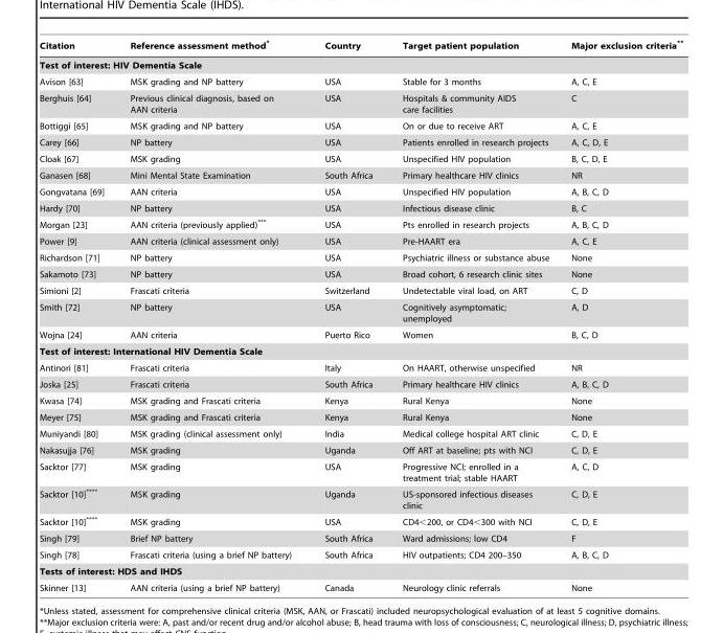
<table><thead><tr><td>Citation</td><td>Reference assessment method*</td><td>Country</td><td>Target patient population</td><td>Major exclusion criteria**</td></tr></thead><tbody><tr><td colspan="5">Test of interest: HIV Dementia Scale</td></tr><tr><td>Avison [63]</td><td>MSK grading and NP battery</td><td>USA</td><td>Stable for 3 months</td><td>A, C, E</td></tr><tr><td>Berghuis [64]</td><td>Previous clinical diagnosis, based on AAN criteria</td><td>USA</td><td>Hospitals &amp; community AIDS care facilities</td><td>C</td></tr><tr><td>Bottiggi [65]</td><td>MSK grading and NP battery</td><td>USA</td><td>On or due to receive ART</td><td>A, C, E</td></tr><tr><td>Carey [66]</td><td>NP battery</td><td>USA</td><td>Patients enrolled in research projects</td><td>A, C, D, E</td></tr><tr><td>Cloak [67]</td><td>MSK grading</td><td>USA</td><td>Unspecified HIV population</td><td>B, C, D, E</td></tr><tr><td>Ganasen [68]</td><td>Mini Mental State Examination</td><td>South Africa</td><td>Primary healthcare HIV clinics</td><td>NR</td></tr><tr><td>Gongvatana [69]</td><td>AAN criteria</td><td>USA</td><td>Unspecified HIV population</td><td>A, B, C, D</td></tr><tr><td>Hardy [70]</td><td>NP battery</td><td>USA</td><td>Infectious disease clinic</td><td>B, C</td></tr><tr><td>Morgan [23]</td><td>AAN criteria (previously applied)***</td><td>USA</td><td>Pts enrolled in research projects</td><td>A, B, C, D</td></tr><tr><td>Power [9]</td><td>AAN criteria (clinical assessment only)</td><td>USA</td><td>Pre-HAART era</td><td>A, C, E</td></tr><tr><td>Richardson [71]</td><td>NP battery</td><td>USA</td><td>Psychiatric illness or substance abuse</td><td>None</td></tr><tr><td>Sakamoto [73]</td><td>NP battery</td><td>USA</td><td>Broad cohort, 6 research clinic sites</td><td>None</td></tr><tr><td>Simioni [2]</td><td>Frascati criteria</td><td>Switzerland</td><td>Undetectable viral load, on ART</td><td>C, D</td></tr><tr><td>Smith [72]</td><td>NP battery</td><td>USA</td><td>Cognitively asymptomatic; unemployed</td><td>A, D</td></tr><tr><td>Wojna [24]</td><td>AAN criteria</td><td>Puerto Rico</td><td>Women</td><td>B, C, D</td></tr><tr><td colspan="5">Test of interest: International HIV Dementia Scale</td></tr><tr><td>Antinori [81]</td><td>Frascati criteria</td><td>Italy</td><td>On HAART, otherwise unspecified</td><td>NR</td></tr><tr><td>Joska [25]</td><td>Frascati criteria</td><td>South Africa</td><td>Primary healthcare HIV clinics</td><td>A, B, C, D</td></tr><tr><td>Kwasa [74]</td><td>MSK grading and Frascati criteria</td><td>Kenya</td><td>Rural Kenya</td><td>None</td></tr><tr><td>Meyer [75]</td><td>MSK grading and Frascati criteria</td><td>Kenya</td><td>Rural Kenya</td><td>None</td></tr><tr><td>Muniyandi [80]</td><td>MSK grading (clinical assessment only)</td><td>India</td><td>Medical college hospital ART clinic</td><td>C, D, E</td></tr><tr><td>Nakasujja [76]</td><td>MSK grading</td><td>Uganda</td><td>Off ART at baseline; pts with NCI</td><td>C, D, E</td></tr><tr><td>Sacktor [77]</td><td>MSK grading</td><td>USA</td><td>Progressive NCI; enrolled in a treatment trial; stable HAART</td><td>A, C, D</td></tr><tr><td>Sacktor [10]****</td><td>MSK grading</td><td>Uganda</td><td>US-sponsored infectious diseases clinic</td><td>C, D, E</td></tr><tr><td>Sacktor [10]****</td><td>MSK grading</td><td>USA</td><td>CD4&lt;200, or CD4&lt;300 with NCI</td><td>C, D, E</td></tr><tr><td>Singh [79]</td><td>Brief NP battery</td><td>South Africa</td><td>Ward admissions; low CD4</td><td>F</td></tr><tr><td>Singh [78]</td><td>Frascati criteria (using a brief NP battery)</td><td>South Africa</td><td>HIV outpatients; CD4 200–350</td><td>A, B, C, D</td></tr><tr><td colspan="5">Tests of interest: HDS and IHDS</td></tr><tr><td>Skinner [13]</td><td>AAN criteria (using a brief NP battery)</td><td>Canada</td><td>Neurology clinic referrals</td><td>None</td></tr></tbody></table>